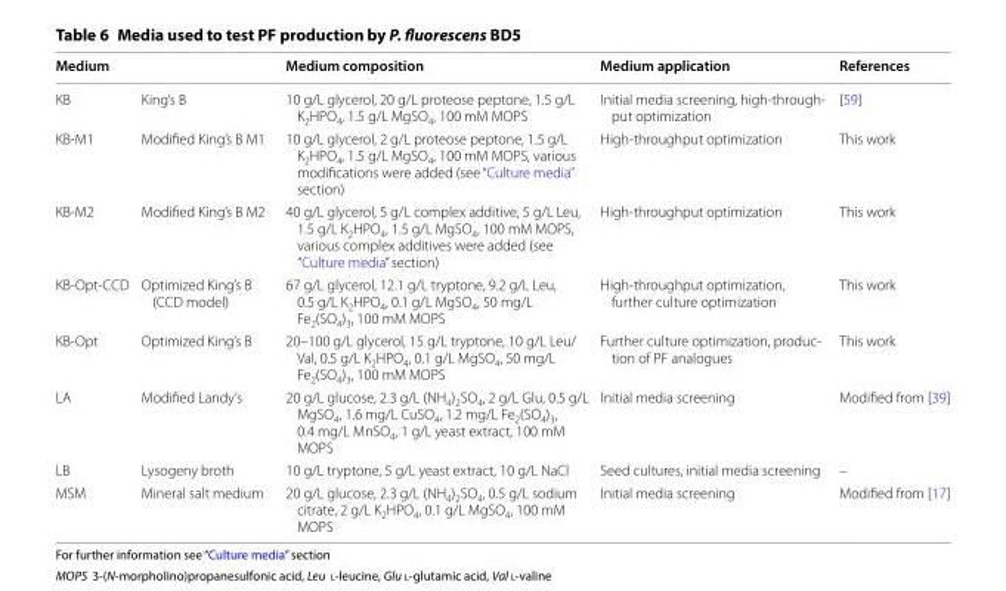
<table><thead><tr><td colspan="2">Medium</td><td rowspan="2">Medium composition 10 g/L glycerol, 20 g/L proteose peptone, 1.5 g/L K<sub>2</sub>HPO<sub>4</sub>, 1.5 g/L MgSO<sub>4</sub>, 100 mM MOPS</td><td rowspan="2">Medium application Initial media screening, high-through- put optimization</td><td rowspan="2">References [59]</td></tr><tr><td>KB</td><td>King’s B</td></tr></thead><tbody><tr><td>KB-M1</td><td>Modified King’s B M1</td><td>10 g/L glycerol, 2 g/L proteose peptone, 1.5 g/L K<sub>2</sub>HPO<sub>4</sub>, 1.5 g/L MgSO<sub>4</sub>, 100 mM MOPS, various modifications were added (see “Culture media” section)</td><td>High-throughput optimization</td><td>This work</td></tr><tr><td>KB-M2</td><td>Modified King’s B M2</td><td>40 g/L glycerol, 5 g/L complex additive, 5 g/L Leu, 1.5 g/L K<sub>2</sub>HPO<sub>4</sub>, 1.5 g/L MgSO<sub>4</sub>, 100 mM MOPS, various complex additives were added (see “Culture media” section)</td><td>High-throughput optimization</td><td>This work</td></tr><tr><td>KB-Opt-CCD</td><td>Optimized King’s B (CCD model)</td><td>67 g/L glycerol, 12.1 g/L tryptone, 9.2 g/L Leu, 0.5 g/L K<sub>2</sub>HPO<sub>4</sub>, 0.1 g/L MgSO<sub>4</sub>, 50 mg/L Fe<sub>2</sub>(SO<sub>4</sub>)<sub>3</sub>, 100 mM MOPS</td><td>High-throughput optimization, further culture optimization</td><td>This work</td></tr><tr><td>KB-Opt</td><td>Optimized King’s B</td><td>20–100 g/L glycerol, 15 g/L tryptone, 10 g/L Leu/ Val, 0.5 g/L K<sub>2</sub>HPO<sub>4</sub>, 0.1 g/L MgSO<sub>4</sub>, 50 mg/L Fe<sub>2</sub>(SO<sub>4</sub>)<sub>3</sub>, 100 mM MOPS</td><td>Further culture optimization, produc- tion of PF analogues</td><td>This work</td></tr><tr><td>LA</td><td>Modified Landy’s</td><td>20 g/L glucose, 2.3 g/L (NH<sub>4</sub>)<sub>2</sub>SO<sub>4</sub>, 2 g/L Glu, 0.5 g/L MgSO<sub>4</sub>, 1.6 mg/L CuSO<sub>4</sub>, 1.2 mg/L Fe<sub>2</sub>(SO<sub>4</sub>)<sub>3</sub>, 0.4 mg/L MnSO<sub>4</sub>, 1 g/L yeast extract, 100 mM MOPS</td><td>Initial media screening</td><td>Modified from [39]</td></tr><tr><td>LB</td><td>Lysogeny broth</td><td>10 g/L tryptone, 5 g/L yeast extract, 10 g/L NaCl</td><td>Seed cultures, initial media screening</td><td>–</td></tr><tr><td>MSM</td><td>Mineral salt medium</td><td>20 g/L glucose, 2.3 g/L (NH<sub>4</sub>)<sub>2</sub>SO<sub>4</sub>, 0.5 g/L sodium citrate, 2 g/L K<sub>2</sub>HPO<sub>4</sub>, 0.1 g/L MgSO<sub>4</sub>, 100 mM MOPS</td><td>Initial media screening</td><td>Modified from [17]</td></tr></tbody></table>